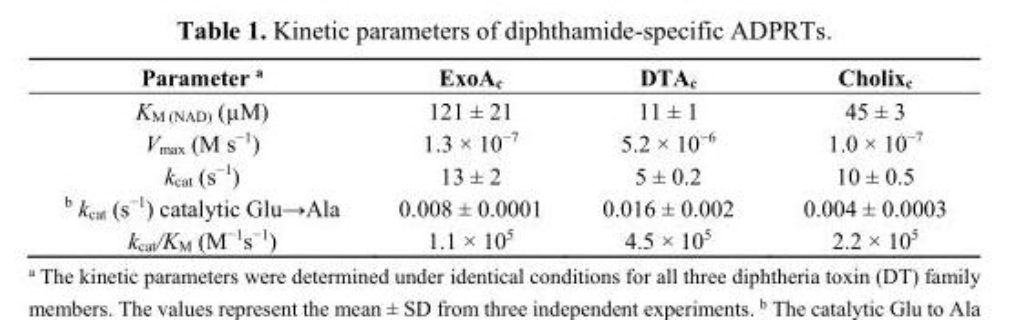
<table><thead><tr><td>Parameter <sup>a</sup></td><td>ExoA<sub>c</sub></td><td>DTA<sub>c</sub></td><td>Cholix<sub>c</sub></td></tr></thead><tbody><tr><td>K<sub>M (NAD)</sub> (µM)</td><td>121 ± 21</td><td>11 ± 1</td><td>45 ± 3</td></tr><tr><td>V<sub>max</sub> (M s<sup>−1</sup>)</td><td>1.3 × 10<sup>−7</sup></td><td>5.2 × 10<sup>−6</sup></td><td>1.0 × 10<sup>−7</sup></td></tr><tr><td>k<sub>cat</sub> (s<sup>−1</sup>)</td><td>13 ± 2</td><td>5 ± 0.2</td><td>10 ± 0.5</td></tr><tr><td><sup>b</sup> k<sub>cat</sub> (s<sup>−1</sup>) catalytic Glu→Ala</td><td>0.008 ± 0.0001</td><td>0.016 ± 0.002</td><td>0.004 ± 0.0003</td></tr><tr><td>k<sub>cat</sub>/K<sub>M</sub> (M<sup>−1</sup>s<sup>−1</sup>)</td><td>1.1 × 10<sup>5</sup></td><td>4.5 × 10<sup>5</sup></td><td>2.2 × 10<sup>5</sup></td></tr></tbody></table>